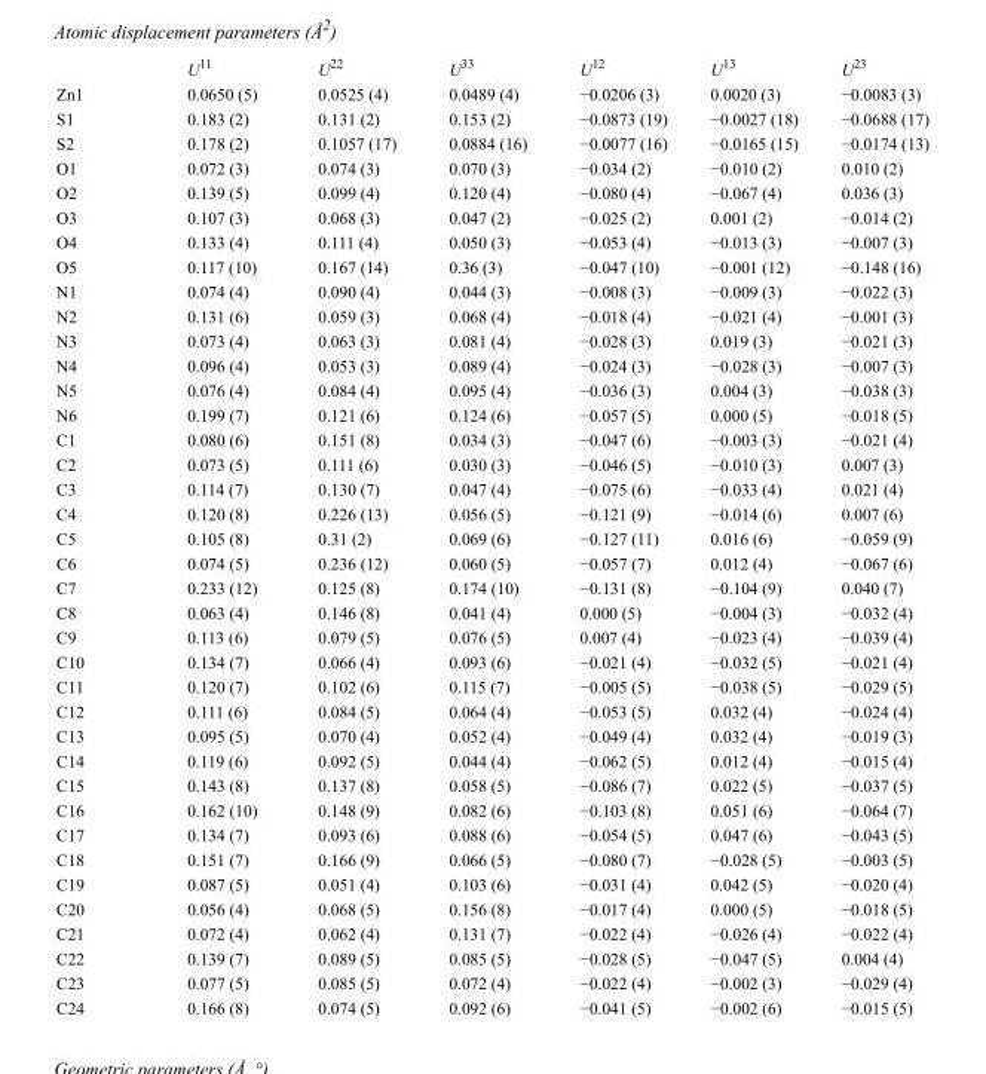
<table><thead><tr><td></td><td>U<sup>11</sup></td><td>U<sup>22</sup></td><td>U<sup>33</sup></td><td>U<sup>12</sup></td><td>U<sup>13</sup></td><td>U<sup>23</sup></td></tr></thead><tbody><tr><td>Zn1</td><td>0.0650 (5)</td><td>0.0525 (4)</td><td>0.0489 (4)</td><td>−0.0206 (3)</td><td>0.0020 (3)</td><td>−0.0083 (3)</td></tr><tr><td>S1</td><td>0.183 (2)</td><td>0.131 (2)</td><td>0.153 (2)</td><td>−0.0873 (19)</td><td>−0.0027 (18)</td><td>−0.0688 (17)</td></tr><tr><td>S2</td><td>0.178 (2)</td><td>0.1057 (17)</td><td>0.0884 (16)</td><td>−0.0077 (16)</td><td>−0.0165 (15)</td><td>−0.0174 (13)</td></tr><tr><td>O1</td><td>0.072 (3)</td><td>0.074 (3)</td><td>0.070 (3)</td><td>−0.034 (2)</td><td>−0.010 (2)</td><td>0.010 (2)</td></tr><tr><td>O2</td><td>0.139 (5)</td><td>0.099 (4)</td><td>0.120 (4)</td><td>−0.080 (4)</td><td>−0.067 (4)</td><td>0.036 (3)</td></tr><tr><td>O3</td><td>0.107 (3)</td><td>0.068 (3)</td><td>0.047 (2)</td><td>−0.025 (2)</td><td>0.001 (2)</td><td>−0.014 (2)</td></tr><tr><td>O4</td><td>0.133 (4)</td><td>0.111 (4)</td><td>0.050 (3)</td><td>−0.053 (4)</td><td>−0.013 (3)</td><td>−0.007 (3)</td></tr><tr><td>O5</td><td>0.117 (10)</td><td>0.167 (14)</td><td>0.36 (3)</td><td>−0.047 (10)</td><td>−0.001 (12)</td><td>−0.148 (16)</td></tr><tr><td>N1</td><td>0.074 (4)</td><td>0.090 (4)</td><td>0.044 (3)</td><td>−0.008 (3)</td><td>−0.009 (3)</td><td>−0.022 (3)</td></tr><tr><td>N2</td><td>0.131 (6)</td><td>0.059 (3)</td><td>0.068 (4)</td><td>−0.018 (4)</td><td>−0.021 (4)</td><td>−0.001 (3)</td></tr><tr><td>N3</td><td>0.073 (4)</td><td>0.063 (3)</td><td>0.081 (4)</td><td>−0.028 (3)</td><td>0.019 (3)</td><td>−0.021 (3)</td></tr><tr><td>N4</td><td>0.096 (4)</td><td>0.053 (3)</td><td>0.089 (4)</td><td>−0.024 (3)</td><td>−0.028 (3)</td><td>−0.007 (3)</td></tr><tr><td>N5</td><td>0.076 (4)</td><td>0.084 (4)</td><td>0.095 (4)</td><td>−0.036 (3)</td><td>0.004 (3)</td><td>−0.038 (3)</td></tr><tr><td>N6</td><td>0.199 (7)</td><td>0.121 (6)</td><td>0.124 (6)</td><td>−0.057 (5)</td><td>0.000 (5)</td><td>−0.018 (5)</td></tr><tr><td>C1</td><td>0.080 (6)</td><td>0.151 (8)</td><td>0.034 (3)</td><td>−0.047 (6)</td><td>−0.003 (3)</td><td>−0.021 (4)</td></tr><tr><td>C2</td><td>0.073 (5)</td><td>0.111 (6)</td><td>0.030 (3)</td><td>−0.046 (5)</td><td>−0.010 (3)</td><td>0.007 (3)</td></tr><tr><td>C3</td><td>0.114 (7)</td><td>0.130 (7)</td><td>0.047 (4)</td><td>−0.075 (6)</td><td>−0.033 (4)</td><td>0.021 (4)</td></tr><tr><td>C4</td><td>0.120 (8)</td><td>0.226 (13)</td><td>0.056 (5)</td><td>−0.121 (9)</td><td>−0.014 (6)</td><td>0.007 (6)</td></tr><tr><td>C5</td><td>0.105 (8)</td><td>0.31 (2)</td><td>0.069 (6)</td><td>−0.127 (11)</td><td>0.016 (6)</td><td>−0.059 (9)</td></tr><tr><td>C6</td><td>0.074 (5)</td><td>0.236 (12)</td><td>0.060 (5)</td><td>−0.057 (7)</td><td>0.012 (4)</td><td>−0.067 (6)</td></tr><tr><td>C7</td><td>0.233 (12)</td><td>0.125 (8)</td><td>0.174 (10)</td><td>−0.131 (8)</td><td>−0.104 (9)</td><td>0.040 (7)</td></tr><tr><td>C8</td><td>0.063 (4)</td><td>0.146 (8)</td><td>0.041 (4)</td><td>0.000 (5)</td><td>−0.004 (3)</td><td>−0.032 (4)</td></tr><tr><td>C9</td><td>0.113 (6)</td><td>0.079 (5)</td><td>0.076 (5)</td><td>0.007 (4)</td><td>−0.023 (4)</td><td>−0.039 (4)</td></tr><tr><td>C10</td><td>0.134 (7)</td><td>0.066 (4)</td><td>0.093 (6)</td><td>−0.021 (4)</td><td>−0.032 (5)</td><td>−0.021 (4)</td></tr><tr><td>C11</td><td>0.120 (7)</td><td>0.102 (6)</td><td>0.115 (7)</td><td>−0.005 (5)</td><td>−0.038 (5)</td><td>−0.029 (5)</td></tr><tr><td>C12</td><td>0.111 (6)</td><td>0.084 (5)</td><td>0.064 (4)</td><td>−0.053 (5)</td><td>0.032 (4)</td><td>−0.024 (4)</td></tr><tr><td>C13</td><td>0.095 (5)</td><td>0.070 (4)</td><td>0.052 (4)</td><td>−0.049 (4)</td><td>0.032 (4)</td><td>−0.019 (3)</td></tr><tr><td>C14</td><td>0.119 (6)</td><td>0.092 (5)</td><td>0.044 (4)</td><td>−0.062 (5)</td><td>0.012 (4)</td><td>−0.015 (4)</td></tr><tr><td>C15</td><td>0.143 (8)</td><td>0.137 (8)</td><td>0.058 (5)</td><td>−0.086 (7)</td><td>0.022 (5)</td><td>−0.037 (5)</td></tr><tr><td>C16</td><td>0.162 (10)</td><td>0.148 (9)</td><td>0.082 (6)</td><td>−0.103 (8)</td><td>0.051 (6)</td><td>−0.064 (7)</td></tr><tr><td>C17</td><td>0.134 (7)</td><td>0.093 (6)</td><td>0.088 (6)</td><td>−0.054 (5)</td><td>0.047 (6)</td><td>−0.043 (5)</td></tr><tr><td>C18</td><td>0.151 (7)</td><td>0.166 (9)</td><td>0.066 (5)</td><td>−0.080 (7)</td><td>−0.028 (5)</td><td>−0.003 (5)</td></tr><tr><td>C19</td><td>0.087 (5)</td><td>0.051 (4)</td><td>0.103 (6)</td><td>−0.031 (4)</td><td>0.042 (5)</td><td>−0.020 (4)</td></tr><tr><td>C20</td><td>0.056 (4)</td><td>0.068 (5)</td><td>0.156 (8)</td><td>−0.017 (4)</td><td>0.000 (5)</td><td>−0.018 (5)</td></tr><tr><td>C21</td><td>0.072 (4)</td><td>0.062 (4)</td><td>0.131 (7)</td><td>−0.022 (4)</td><td>−0.026 (4)</td><td>−0.022 (4)</td></tr><tr><td>C22</td><td>0.139 (7)</td><td>0.089 (5)</td><td>0.085 (5)</td><td>−0.028 (5)</td><td>−0.047 (5)</td><td>0.004 (4)</td></tr><tr><td>C23</td><td>0.077 (5)</td><td>0.085 (5)</td><td>0.072 (4)</td><td>−0.022 (4)</td><td>−0.002 (3)</td><td>−0.029 (4)</td></tr><tr><td>C24</td><td>0.166 (8)</td><td>0.074 (5)</td><td>0.092 (6)</td><td>−0.041 (5)</td><td>−0.002 (6)</td><td>−0.015 (5)</td></tr></tbody></table>